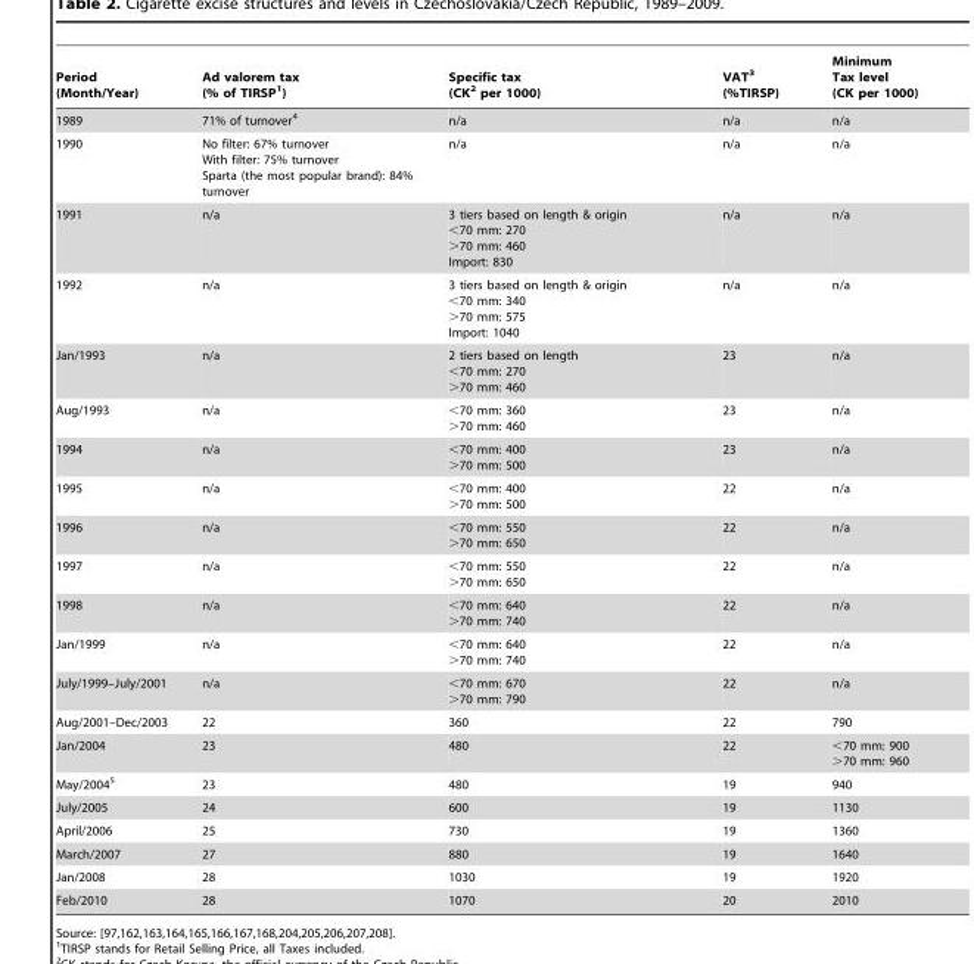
<table><thead><tr><td>Period (Month/Year)</td><td>Ad valorem tax (% of TIRSP<sup>1</sup>)</td><td>Specific tax (CK<sup>2</sup> per 1000)</td><td>VAT<sup>3</sup> (%TIRSP)</td><td>Minimum Tax level (CK per 1000)</td></tr></thead><tbody><tr><td>1989</td><td>71% of turnover<sup>4</sup></td><td>n/a</td><td>n/a</td><td>n/a</td></tr><tr><td>1990</td><td>No filter: 67% turnover With filter: 75% turnover Sparta (the most popular brand): 84% turnover</td><td>n/a</td><td>n/a</td><td>n/a</td></tr><tr><td>1991</td><td>n/a</td><td>3 tiers based on length &amp; origin &lt;70 mm: 270 &gt;70 mm: 460 Import: 830</td><td>n/a</td><td>n/a</td></tr><tr><td>1992</td><td>n/a</td><td>3 tiers based on length &amp; origin &lt;70 mm: 340 &gt;70 mm: 575 Import: 1040</td><td>n/a</td><td>n/a</td></tr><tr><td>Jan/1993</td><td>n/a</td><td>2 tiers based on length &lt;70 mm: 270 &gt;70 mm: 460</td><td>23</td><td>n/a</td></tr><tr><td>Aug/1993</td><td>n/a</td><td>&lt;70 mm: 360 &gt;70 mm: 460</td><td>23</td><td>n/a</td></tr><tr><td>1994</td><td>n/a</td><td>&lt;70 mm: 400 &gt;70 mm: 500</td><td>23</td><td>n/a</td></tr><tr><td>1995</td><td>n/a</td><td>&lt;70 mm: 400 &gt;70 mm: 500</td><td>22</td><td>n/a</td></tr><tr><td>1996</td><td>n/a</td><td>&lt;70 mm: 550 &gt;70 mm: 650</td><td>22</td><td>n/a</td></tr><tr><td>1997</td><td>n/a</td><td>&lt;70 mm: 550 &gt;70 mm: 650</td><td>22</td><td>n/a</td></tr><tr><td>1998</td><td>n/a</td><td>&lt;70 mm: 640 &gt;70 mm: 740</td><td>22</td><td>n/a</td></tr><tr><td>Jan/1999</td><td>n/a</td><td>&lt;70 mm: 640 &gt;70 mm: 740</td><td>22</td><td>n/a</td></tr><tr><td>July/1999–July/2001</td><td>n/a</td><td>&lt;70 mm: 670 &gt;70 mm: 790</td><td>22</td><td>n/a</td></tr><tr><td>Aug/2001–Dec/2003</td><td>22</td><td>360</td><td>22</td><td>790</td></tr><tr><td>Jan/2004</td><td>23</td><td>480</td><td>22</td><td>&lt;70 mm: 900 &gt;70 mm: 960</td></tr><tr><td>May/2004<sup>5</sup></td><td>23</td><td>480</td><td>19</td><td>940</td></tr><tr><td>July/2005</td><td>24</td><td>600</td><td>19</td><td>1130</td></tr><tr><td>April/2006</td><td>25</td><td>730</td><td>19</td><td>1360</td></tr><tr><td>March/2007</td><td>27</td><td>880</td><td>19</td><td>1640</td></tr><tr><td>Jan/2008</td><td>28</td><td>1030</td><td>19</td><td>1920</td></tr><tr><td>Feb/2010</td><td>28</td><td>1070</td><td>20</td><td>2010</td></tr></tbody></table>